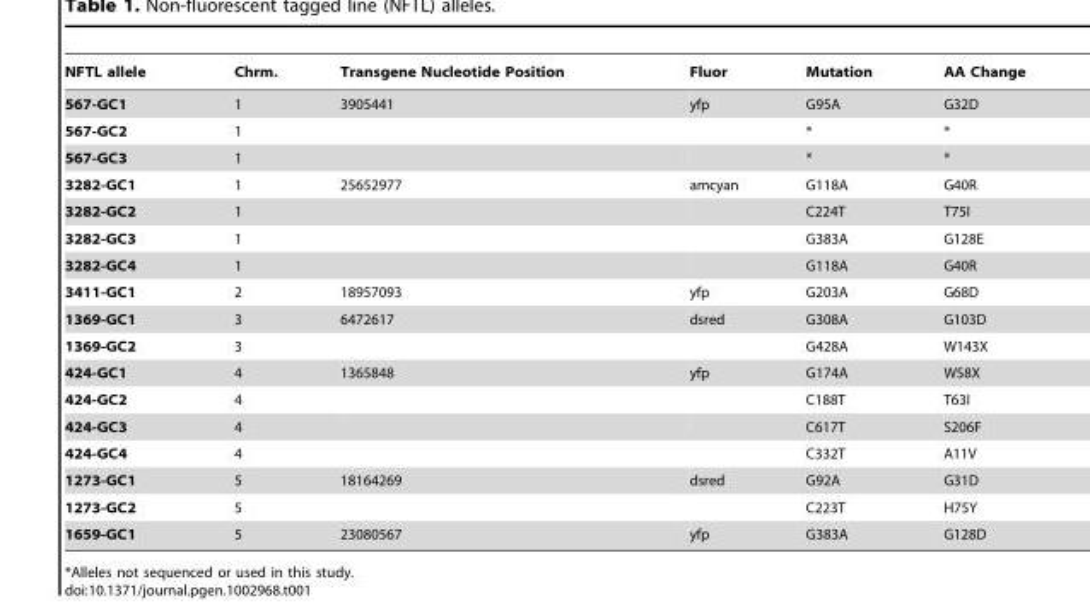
<table><thead><tr><td>NFTL allele</td><td>Chrm.</td><td>Transgene Nucleotide Position</td><td>Fluor</td><td>Mutation</td><td>AA Change</td></tr></thead><tbody><tr><td>567-GC1</td><td>1</td><td>3905441</td><td>yfp</td><td>G95A</td><td>G32D</td></tr><tr><td>567-GC2</td><td>1</td><td></td><td></td><td>*</td><td>*</td></tr><tr><td>567-GC3</td><td>1</td><td></td><td></td><td>*</td><td>*</td></tr><tr><td>3282-GC1</td><td>1</td><td>25652977</td><td>amcyan</td><td>G118A</td><td>G40R</td></tr><tr><td>3282-GC2</td><td>1</td><td></td><td></td><td>C224T</td><td>T75I</td></tr><tr><td>3282-GC3</td><td>1</td><td></td><td></td><td>G383A</td><td>G128E</td></tr><tr><td>3282-GC4</td><td>1</td><td></td><td></td><td>G118A</td><td>G40R</td></tr><tr><td>3411-GC1</td><td>2</td><td>18957093</td><td>yfp</td><td>G203A</td><td>G68D</td></tr><tr><td>1369-GC1</td><td>3</td><td>6472617</td><td>dsred</td><td>G308A</td><td>G103D</td></tr><tr><td>1369-GC2</td><td>3</td><td></td><td></td><td>G428A</td><td>W143X</td></tr><tr><td>424-GC1</td><td>4</td><td>1365848</td><td>yfp</td><td>G174A</td><td>W58X</td></tr><tr><td>424-GC2</td><td>4</td><td></td><td></td><td>C188T</td><td>T63I</td></tr><tr><td>424-GC3</td><td>4</td><td></td><td></td><td>C617T</td><td>S206F</td></tr><tr><td>424-GC4</td><td>4</td><td></td><td></td><td>C332T</td><td>A11V</td></tr><tr><td>1273-GC1</td><td>5</td><td>18164269</td><td>dsred</td><td>G92A</td><td>G31D</td></tr><tr><td>1273-GC2</td><td>5</td><td></td><td></td><td>C223T</td><td>H75Y</td></tr><tr><td>1659-GC1</td><td>5</td><td>23080567</td><td>yfp</td><td>G383A</td><td>G128D</td></tr></tbody></table>